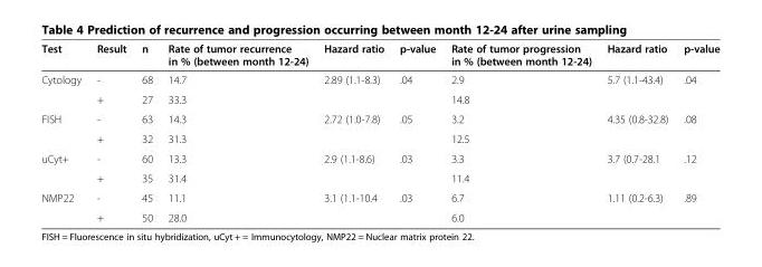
<table><thead><tr><td>Test</td><td>Result</td><td>n</td><td>Rate of tumor recurrence in % (between month 12-24)</td><td>Hazard ratio</td><td>p-value</td><td>Rate of tumor progression in % (between month 12-24)</td><td>Hazard ratio</td><td>p-value</td></tr></thead><tbody><tr><td rowspan="2">Cytology</td><td>-</td><td>68</td><td>14.7</td><td rowspan="2">2.89 (1.1-8.3)</td><td rowspan="2">.04</td><td>2.9</td><td rowspan="2">5.7 (1.1-43.4)</td><td rowspan="2">.04</td></tr><tr><td>+</td><td>27</td><td>33.3</td><td>14.8</td></tr><tr><td rowspan="2">FISH</td><td>-</td><td>63</td><td>14.3</td><td rowspan="2">2.72 (1.0-7.8)</td><td rowspan="2">.05</td><td>3.2</td><td rowspan="2">4.35 (0.8-32.8)</td><td rowspan="2">.08</td></tr><tr><td>+</td><td>32</td><td>31.3</td><td>12.5</td></tr><tr><td rowspan="2">uCyt+</td><td>-</td><td>60</td><td>13.3</td><td rowspan="2">2.9 (1.1-8.6)</td><td rowspan="2">.03</td><td>3.3</td><td rowspan="2">3.7 (0.7-28.1</td><td rowspan="2">.12</td></tr><tr><td>+</td><td>35</td><td>31.4</td><td>11.4</td></tr><tr><td rowspan="2">NMP22</td><td>-</td><td>45</td><td>11.1</td><td rowspan="2">3.1 (1.1-10.4</td><td rowspan="2">.03</td><td>6.7</td><td rowspan="2">1.11 (0.2-6.3)</td><td rowspan="2">.89</td></tr><tr><td>+</td><td>50</td><td>28.0</td><td>6.0</td></tr></tbody></table>